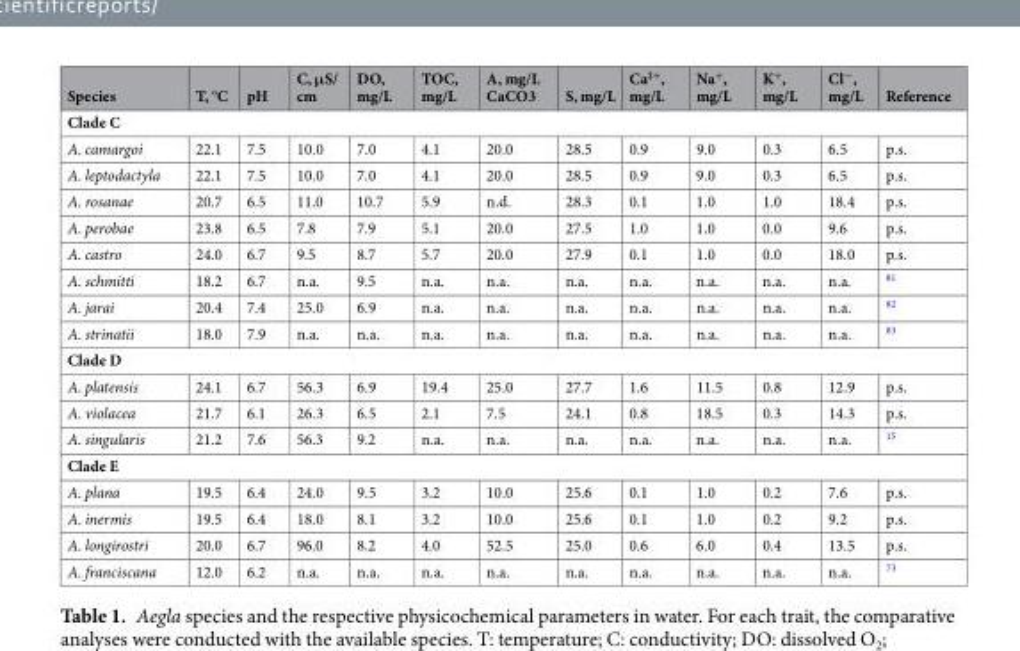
<table><thead><tr><td>Species</td><td>T, °C</td><td>pH</td><td>C, μS/ cm</td><td>DO, mg/L</td><td>TOC, mg/L</td><td>A, mg/L CaCO3</td><td>S, mg/L</td><td>Ca<sup>2+</sup>, mg/L</td><td>Na<sup>+</sup>, mg/L</td><td>K<sup>+</sup>, mg/L</td><td>Cl<sup>−</sup>, mg/L</td><td>Reference</td></tr></thead><tbody><tr><td colspan="13">Clade C</td></tr><tr><td>A. camargoi</td><td>22.1</td><td>7.5</td><td>10.0</td><td>7.0</td><td>4.1</td><td>20.0</td><td>28.5</td><td>0.9</td><td>9.0</td><td>0.3</td><td>6.5</td><td>p.s.</td></tr><tr><td>A. leptodactyla</td><td>22.1</td><td>7.5</td><td>10.0</td><td>7.0</td><td>4.1</td><td>20.0</td><td>28.5</td><td>0.9</td><td>9.0</td><td>0.3</td><td>6.5</td><td>p.s.</td></tr><tr><td>A. rosanae</td><td>20.7</td><td>6.5</td><td>11.0</td><td>10.7</td><td>5.9</td><td>n.d.</td><td>28.3</td><td>0.1</td><td>1.0</td><td>1.0</td><td>18.4</td><td>p.s.</td></tr><tr><td>A. perobae</td><td>23.8</td><td>6.5</td><td>7.8</td><td>7.9</td><td>5.1</td><td>20.0</td><td>27.5</td><td>1.0</td><td>1.0</td><td>0.0</td><td>9.6</td><td>p.s.</td></tr><tr><td>A. castro</td><td>24.0</td><td>6.7</td><td>9.5</td><td>8.7</td><td>5.7</td><td>20.0</td><td>27.9</td><td>0.1</td><td>1.0</td><td>0.0</td><td>18.0</td><td>p.s.</td></tr><tr><td>A. schmitti</td><td>18.2</td><td>6.7</td><td>n.a.</td><td>9.5</td><td>n.a.</td><td>n.a.</td><td>n.a.</td><td>n.a.</td><td>n.a.</td><td>n.a.</td><td>n.a.</td><td><sup>81</sup></td></tr><tr><td>A. jarai</td><td>20.4</td><td>7.4</td><td>25.0</td><td>6.9</td><td>n.a.</td><td>n.a.</td><td>n.a.</td><td>n.a.</td><td>n.a.</td><td>n.a.</td><td>n.a.</td><td><sup>82</sup></td></tr><tr><td>A. strinatii</td><td>18.0</td><td>7.9</td><td>n.a.</td><td>n.a.</td><td>n.a.</td><td>n.a.</td><td>n.a.</td><td>n.a.</td><td>n.a.</td><td>n.a.</td><td>n.a.</td><td><sup>83</sup></td></tr><tr><td colspan="13">Clade D</td></tr><tr><td>A. platensis</td><td>24.1</td><td>6.7</td><td>56.3</td><td>6.9</td><td>19.4</td><td>25.0</td><td>27.7</td><td>1.6</td><td>11.5</td><td>0.8</td><td>12.9</td><td>p.s.</td></tr><tr><td>A. violacea</td><td>21.7</td><td>6.1</td><td>26.3</td><td>6.5</td><td>2.1</td><td>7.5</td><td>24.1</td><td>0.8</td><td>18.5</td><td>0.3</td><td>14.3</td><td>p.s.</td></tr><tr><td>A. singularis</td><td>21.2</td><td>7.6</td><td>56.3</td><td>9.2</td><td>n.a.</td><td>n.a.</td><td>n.a.</td><td>n.a.</td><td>n.a.</td><td>n.a.</td><td>n.a.</td><td><sup>15</sup></td></tr><tr><td colspan="13">Clade E</td></tr><tr><td>A. plana</td><td>19.5</td><td>6.4</td><td>24.0</td><td>9.5</td><td>3.2</td><td>10.0</td><td>25.6</td><td>0.1</td><td>1.0</td><td>0.2</td><td>7.6</td><td>p.s.</td></tr><tr><td>A. inermis</td><td>19.5</td><td>6.4</td><td>18.0</td><td>8.1</td><td>3.2</td><td>10.0</td><td>25.6</td><td>0.1</td><td>1.0</td><td>0.2</td><td>9.2</td><td>p.s.</td></tr><tr><td>A. longirostri</td><td>20.0</td><td>6.7</td><td>96.0</td><td>8.2</td><td>4.0</td><td>52.5</td><td>25.0</td><td>0.6</td><td>6.0</td><td>0.4</td><td>13.5</td><td>p.s.</td></tr><tr><td>A. franciscana</td><td>12.0</td><td>6.2</td><td>n.a.</td><td>n.a.</td><td>n.a.</td><td>n.a.</td><td>n.a.</td><td>n.a.</td><td>n.a.</td><td>n.a.</td><td>n.a.</td><td><sup>73</sup></td></tr></tbody></table>